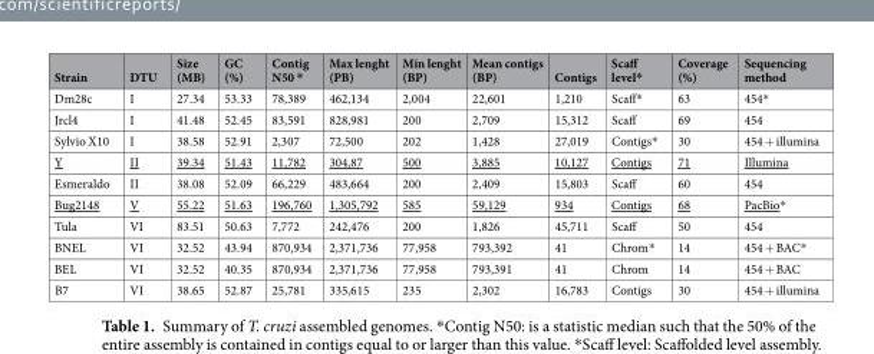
<table><thead><tr><td>Strain</td><td>DTU</td><td>Size (MB)</td><td>GC (%)</td><td>Contig N50 *</td><td>Max lenght (PB)</td><td>Min lenght (BP)</td><td>Mean contigs (BP)</td><td>Contigs</td><td>Scaff level*</td><td>Coverage (%)</td><td>Sequencing method</td></tr></thead><tbody><tr><td>Dm28c</td><td>I</td><td>27.34</td><td>53.33</td><td>78,389</td><td>462,134</td><td>2,004</td><td>22,601</td><td>1,210</td><td>Scaff*</td><td>63</td><td>454*</td></tr><tr><td>Jrcl4</td><td>I</td><td>41.48</td><td>52.45</td><td>83,591</td><td>828,981</td><td>200</td><td>2,709</td><td>15,312</td><td>Scaff</td><td>69</td><td>454</td></tr><tr><td>Sylvio X10</td><td>I</td><td>38.58</td><td>52.91</td><td>2,307</td><td>72,500</td><td>202</td><td>1,428</td><td>27,019</td><td>Contigs*</td><td>30</td><td>454 + illumina</td></tr><tr><td>Y</td><td>II</td><td>39.34</td><td>51.43</td><td>11,782</td><td>304,87</td><td>500</td><td>3,885</td><td>10,127</td><td>Contigs</td><td>71</td><td>Illumina</td></tr><tr><td>Esmeraldo</td><td>II</td><td>38.08</td><td>52.09</td><td>66,229</td><td>483,664</td><td>200</td><td>2,409</td><td>15,803</td><td>Scaff</td><td>60</td><td>454</td></tr><tr><td>Bug2148</td><td>V</td><td>55.22</td><td>51.63</td><td>196,760</td><td>1,305,792</td><td>585</td><td>59,129</td><td>934</td><td>Contigs</td><td>68</td><td>PacBio*</td></tr><tr><td>Tula</td><td>VI</td><td>83.51</td><td>50.63</td><td>7,772</td><td>242,476</td><td>200</td><td>1,826</td><td>45,711</td><td>Scaff</td><td>50</td><td>454</td></tr><tr><td>BNEL</td><td>VI</td><td>32.52</td><td>43.94</td><td>870,934</td><td>2,371,736</td><td>77,958</td><td>793,392</td><td>41</td><td>Chrom*</td><td>14</td><td>454 + BAC*</td></tr><tr><td>BEL</td><td>VI</td><td>32.52</td><td>40.35</td><td>870,934</td><td>2,371,736</td><td>77,958</td><td>793,391</td><td>41</td><td>Chrom</td><td>14</td><td>454 + BAC</td></tr><tr><td>B7</td><td>VI</td><td>38.65</td><td>52.87</td><td>25,781</td><td>335,615</td><td>235</td><td>2,302</td><td>16,783</td><td>Contigs</td><td>30</td><td>454 + illumina</td></tr></tbody></table>